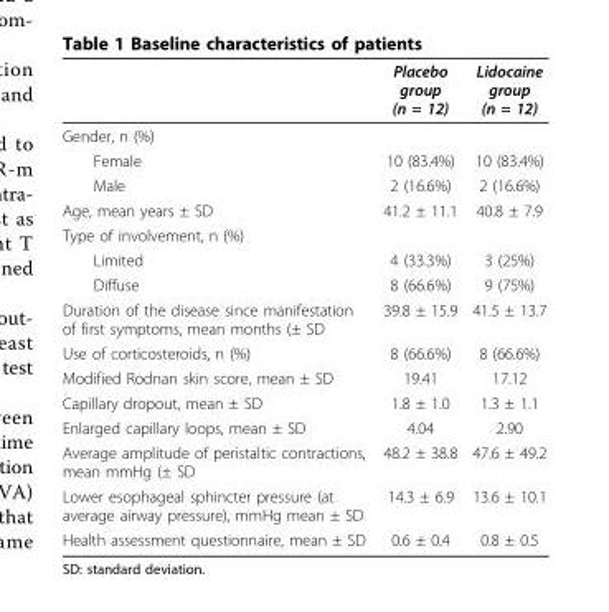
<table><thead><tr><td></td><td>Placebo group (n = 12)</td><td>Lidocaine group (n = 12)</td></tr></thead><tbody><tr><td colspan="3">Gender, n (%)</td></tr><tr><td>Female</td><td>10 (83.4%)</td><td>10 (83.4%)</td></tr><tr><td>Male</td><td>2 (16.6%)</td><td>2 (16.6%)</td></tr><tr><td>Age, mean years ± SD</td><td>41.2 ± 11.1</td><td>40.8 ± 7.9</td></tr><tr><td colspan="3">Type of involvement, n (%)</td></tr><tr><td>Limited</td><td>4 (33.3%)</td><td>3 (25%)</td></tr><tr><td>Diffuse</td><td>8 (66.6%)</td><td>9 (75%)</td></tr><tr><td>Duration of the disease since manifestation of first symptoms, mean months (± SD</td><td>39.8 ± 15.9</td><td>41.5 ± 13.7</td></tr><tr><td>Use of corticosteroids, n (%)</td><td>8 (66.6%)</td><td>8 (66.6%)</td></tr><tr><td>Modified Rodnan skin score, mean ± SD</td><td>19.41</td><td>17.12</td></tr><tr><td>Capillary dropout, mean ± SD</td><td>1.8 ± 1.0</td><td>1.3 ± 1.1</td></tr><tr><td>Enlarged capillary loops, mean ± SD</td><td>4.04</td><td>2.90</td></tr><tr><td>Average amplitude of peristaltic contractions, mean mmHg (± SD</td><td>48.2 ± 38.8</td><td>47.6 ± 49.2</td></tr><tr><td>Lower esophageal sphincter pressure (at average airway pressure), mmHg mean ± SD</td><td>14.3 ± 6.9</td><td>13.6 ± 10.1</td></tr><tr><td>Health assessment questionnaire, mean ± SD</td><td>0.6 ± 0.4</td><td>0.8 ± 0.5</td></tr></tbody></table>